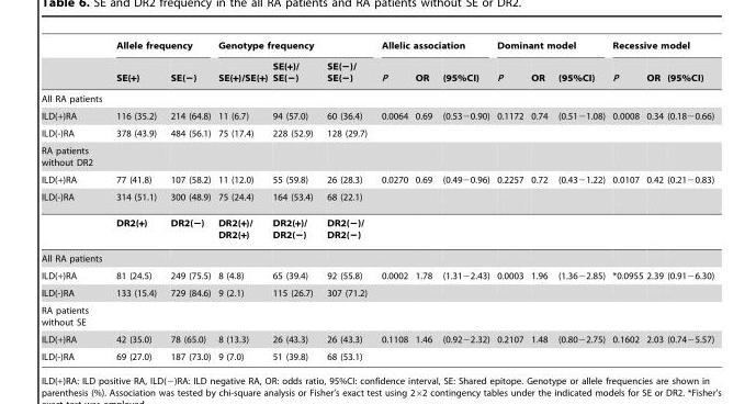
<table><thead><tr><td rowspan="2"></td><td colspan="2">Allele frequency</td><td colspan="3">Genotype frequency</td><td colspan="3">Allelic association</td><td colspan="3">Dominant model</td><td colspan="3">Recessive model</td></tr><tr><td>SE(+)</td><td>SE(−)</td><td>SE(+)/SE(+)</td><td>SE(+)/ SE(−)</td><td>SE(−)/ SE(−)</td><td>P</td><td>OR</td><td>(95%CI)</td><td>P</td><td>OR</td><td>(95%CI)</td><td>P</td><td>OR</td><td>(95%CI)</td></tr></thead><tbody><tr><td colspan="15">All RA patients</td></tr><tr><td>ILD(+)RA</td><td>116 (35.2)</td><td>214 (64.8)</td><td>11 (6.7)</td><td>94 (57.0)</td><td>60 (36.4)</td><td>0.0064</td><td>0.69</td><td>(0.53−0.90)</td><td>0.1172</td><td>0.74</td><td>(0.51−1.08)</td><td>0.0008</td><td>0.34</td><td>(0.18−0.66)</td></tr><tr><td>ILD(-)RA</td><td>378 (43.9)</td><td>484 (56.1)</td><td>75 (17.4)</td><td>228 (52.9)</td><td>128 (29.7)</td><td></td><td></td><td></td><td></td><td></td><td></td><td></td><td></td><td></td></tr><tr><td colspan="15">RA patients without DR2</td></tr><tr><td>ILD(+)RA</td><td>77 (41.8)</td><td>107 (58.2)</td><td>11 (12.0)</td><td>55 (59.8)</td><td>26 (28.3)</td><td>0.0270</td><td>0.69</td><td>(0.49−0.96)</td><td>0.2257</td><td>0.72</td><td>(0.43−1.22)</td><td>0.0107</td><td>0.42</td><td>(0.21−0.83)</td></tr><tr><td rowspan="2">ILD(-)RA</td><td>314 (51.1)</td><td>300 (48.9)</td><td>75 (24.4)</td><td>164 (53.4)</td><td>68 (22.1)</td><td></td><td></td><td></td><td></td><td></td><td></td><td></td><td></td><td></td></tr><tr><td>DR2(+)</td><td>DR2(−)</td><td>DR2(+)/ DR2(+)</td><td>DR2(+)/ DR2(−)</td><td>DR2(−)/ DR2(−)</td><td></td><td></td><td></td><td></td><td></td><td></td><td></td><td></td><td></td></tr><tr><td colspan="15">All RA patients</td></tr><tr><td>ILD(+)RA</td><td>81 (24.5)</td><td>249 (75.5)</td><td>8 (4.8)</td><td>65 (39.4)</td><td>92 (55.8)</td><td>0.0002</td><td>1.78</td><td>(1.31−2.43)</td><td>0.0003</td><td>1.96</td><td>(1.36−2.85)</td><td>*0.0955</td><td>2.39</td><td>(0.91−6.30)</td></tr><tr><td>ILD(-)RA</td><td>133 (15.4)</td><td>729 (84.6)</td><td>9 (2.1)</td><td>115 (26.7)</td><td>307 (71.2)</td><td></td><td></td><td></td><td></td><td></td><td></td><td></td><td></td><td></td></tr><tr><td colspan="15">RA patients without SE</td></tr><tr><td>ILD(+)RA</td><td>42 (35.0)</td><td>78 (65.0)</td><td>8 (13.3)</td><td>26 (43.3)</td><td>26 (43.3)</td><td>0.1108</td><td>1.46</td><td>(0.92−2.32)</td><td>0.2107</td><td>1.48</td><td>(0.80−2.75)</td><td>0.1602</td><td>2.03</td><td>(0.74−5.57)</td></tr><tr><td>ILD(-)RA</td><td>69 (27.0)</td><td>187 (73.0)</td><td>9 (7.0)</td><td>51 (39.8)</td><td>68 (53.1)</td><td></td><td></td><td></td><td></td><td></td><td></td><td></td><td></td><td></td></tr></tbody></table>